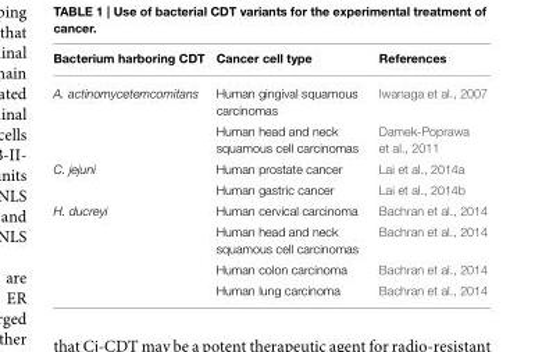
<table><thead><tr><td>Bacterium harboring CDT</td><td>Cancer cell type</td><td>References</td></tr></thead><tbody><tr><td rowspan="2">A. actinomycetemcomitans</td><td>Human gingival squamous carcinomas</td><td>Iwanaga et al., 2007</td></tr><tr><td>Human head and neck squamous cell carcinomas</td><td>Damek-Poprawa et al., 2011</td></tr><tr><td rowspan="2">C. jejuni</td><td>Human prostate cancer</td><td>Lai et al., 2014a</td></tr><tr><td>Human gastric cancer</td><td>Lai et al., 2014b</td></tr><tr><td rowspan="4">H. ducreyi</td><td>Human cervical carcinoma</td><td>Bachran et al., 2014</td></tr><tr><td>Human head and neck squamous cell carcinomas</td><td>Bachran et al., 2014</td></tr><tr><td>Human colon carcinoma</td><td>Bachran et al., 2014</td></tr><tr><td>Human lung carcinoma</td><td>Bachran et al., 2014</td></tr></tbody></table>